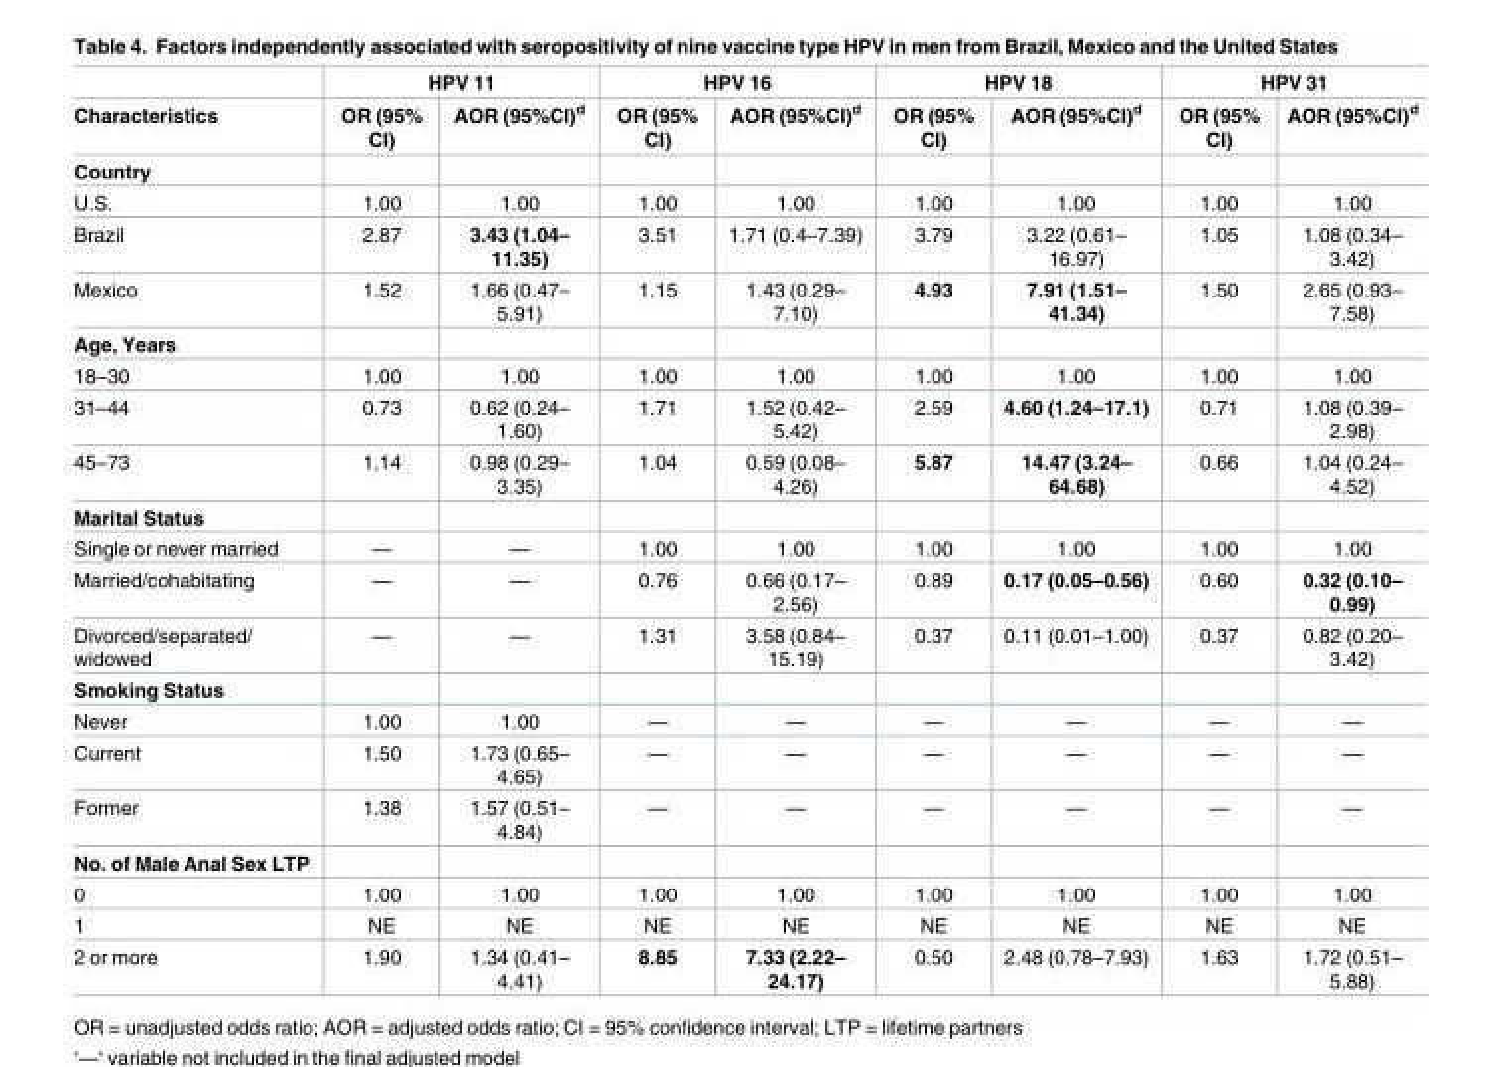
<table><thead><tr><td rowspan="2">Characteristics</td><td colspan="2">HPV 11</td><td colspan="2">HPV 16</td><td colspan="2">HPV 18</td><td colspan="2">HPV 31</td></tr><tr><td>OR (95% CI)</td><td>AOR (95%CI)<sup>d</sup></td><td>OR (95% CI)</td><td>AOR (95%CI)<sup>d</sup></td><td>OR (95% CI)</td><td>AOR (95%CI)<sup>d</sup></td><td>OR (95% CI)</td><td>AOR (95%CI)<sup>d</sup></td></tr></thead><tbody><tr><td colspan="9">Country</td></tr><tr><td>U.S.</td><td>1.00</td><td>1.00</td><td>1.00</td><td>1.00</td><td>1.00</td><td>1.00</td><td>1.00</td><td>1.00</td></tr><tr><td>Brazil</td><td>2.87</td><td>3.43 (1.04– 11.35)</td><td>3.51</td><td>1.71 (0.4–7.39)</td><td>3.79</td><td>3.22 (0.61– 16.97)</td><td>1.05</td><td>1.08 (0.34– 3.42)</td></tr><tr><td>Mexico</td><td>1.52</td><td>1.66 (0.47– 5.91)</td><td>1.15</td><td>1.43 (0.29– 7.10)</td><td>4.93</td><td>7.91 (1.51– 41.34)</td><td>1.50</td><td>2.65 (0.93– 7.58)</td></tr><tr><td colspan="9">Age, Years</td></tr><tr><td>18–30</td><td>1.00</td><td>1.00</td><td>1.00</td><td>1.00</td><td>1.00</td><td>1.00</td><td>1.00</td><td>1.00</td></tr><tr><td>31–44</td><td>0.73</td><td>0.62 (0.24– 1.60)</td><td>1.71</td><td>1.52 (0.42– 5.42)</td><td>2.59</td><td>4.60 (1.24–17.1)</td><td>0.71</td><td>1.08 (0.39– 2.98)</td></tr><tr><td>45–73</td><td>1.14</td><td>0.98 (0.29– 3.35)</td><td>1.04</td><td>0.59 (0.08– 4.26)</td><td>5.87</td><td>14.47 (3.24– 64.68)</td><td>0.66</td><td>1.04 (0.24– 4.52)</td></tr><tr><td colspan="9">Marital Status</td></tr><tr><td>Single or never married</td><td>—</td><td>—</td><td>1.00</td><td>1.00</td><td>1.00</td><td>1.00</td><td>1.00</td><td>1.00</td></tr><tr><td>Married/cohabitating</td><td>—</td><td>—</td><td>0.76</td><td>0.66 (0.17– 2.56)</td><td>0.89</td><td>0.17 (0.05–0.56)</td><td>0.60</td><td>0.32 (0.10– 0.99)</td></tr><tr><td>Divorced/separated/ widowed</td><td>—</td><td>—</td><td>1.31</td><td>3.58 (0.84– 15.19)</td><td>0.37</td><td>0.11 (0.01–1.00)</td><td>0.37</td><td>0.82 (0.20– 3.42)</td></tr><tr><td colspan="9">Smoking Status</td></tr><tr><td>Never</td><td>1.00</td><td>1.00</td><td>—</td><td>—</td><td>—</td><td>—</td><td>—</td><td>—</td></tr><tr><td>Current</td><td>1.50</td><td>1.73 (0.65– 4.65)</td><td>—</td><td>—</td><td>—</td><td>—</td><td>—</td><td>—</td></tr><tr><td>Former</td><td>1.38</td><td>1.57 (0.51– 4.84)</td><td>—</td><td>—</td><td>—</td><td>—</td><td>—</td><td>—</td></tr><tr><td colspan="9">No. of Male Anal Sex LTP</td></tr><tr><td>0</td><td>1.00</td><td>1.00</td><td>1.00</td><td>1.00</td><td>1.00</td><td>1.00</td><td>1.00</td><td>1.00</td></tr><tr><td>1</td><td>NE</td><td>NE</td><td>NE</td><td>NE</td><td>NE</td><td>NE</td><td>NE</td><td>NE</td></tr><tr><td>2 or more</td><td>1.90</td><td>1.34 (0.41– 4.41)</td><td>8.85</td><td>7.33 (2.22– 24.17)</td><td>0.50</td><td>2.48 (0.78–7.93)</td><td>1.63</td><td>1.72 (0.51– 5.88)</td></tr></tbody></table>